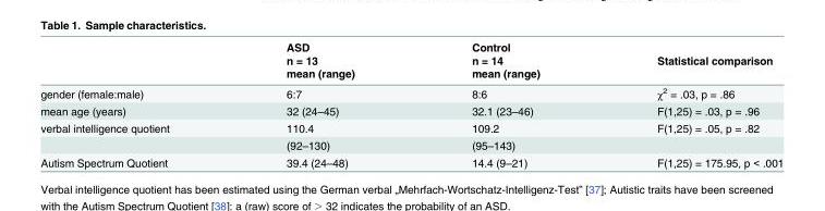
<table><thead><tr><td rowspan="3"></td><td rowspan="3">ASD n = 13 mean (range)</td><td rowspan="3">Control n = 14 mean (range)</td><td rowspan="3">Statistical comparison</td></tr><tr></tr><tr></tr></thead><tbody><tr><td>gender (female:male)</td><td>6:7</td><td>8:6</td><td>χ<sup>2</sup> = .03, p = .86</td></tr><tr><td>mean age (years)</td><td>32 (24–45)</td><td>32.1 (23–46)</td><td>F(1,25) = .03, p = .96</td></tr><tr><td rowspan="2">verbal intelligence quotient</td><td>110.4</td><td>109.2</td><td>F(1,25) = .05, p = .82</td></tr><tr><td>(92–130)</td><td>(95–143)</td><td></td></tr><tr><td>Autism Spectrum Quotient</td><td>39.4 (24–48)</td><td>14.4 (9–21)</td><td>F(1,25) = 175.95, p &lt; .001</td></tr></tbody></table>